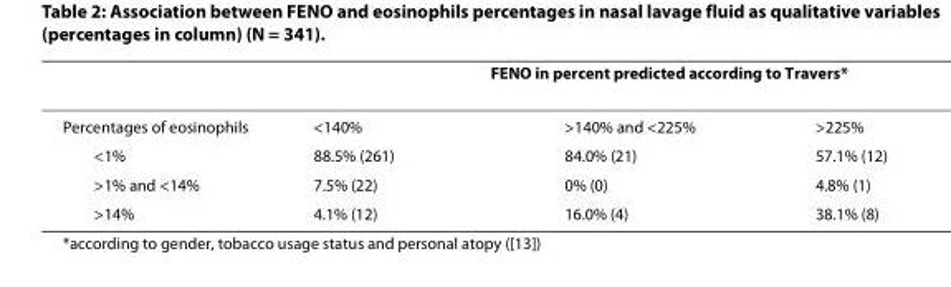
<table><thead><tr><td rowspan="2">Percentages of eosinophils</td><td colspan="3">FENO in percent predicted according to Travers*</td></tr><tr><td>&lt;140%</td><td>&gt;140% and &lt;225%</td><td>&gt;225%</td></tr></thead><tbody><tr><td>&lt;1%</td><td>88.5% (261)</td><td>84.0% (21)</td><td>57.1% (12)</td></tr><tr><td>&gt;1% and &lt;14%</td><td>7.5% (22)</td><td>0% (0)</td><td>4.8% (1)</td></tr><tr><td>&gt;14%</td><td>4.1% (12)</td><td>16.0% (4)</td><td>38.1% (8)</td></tr></tbody></table>